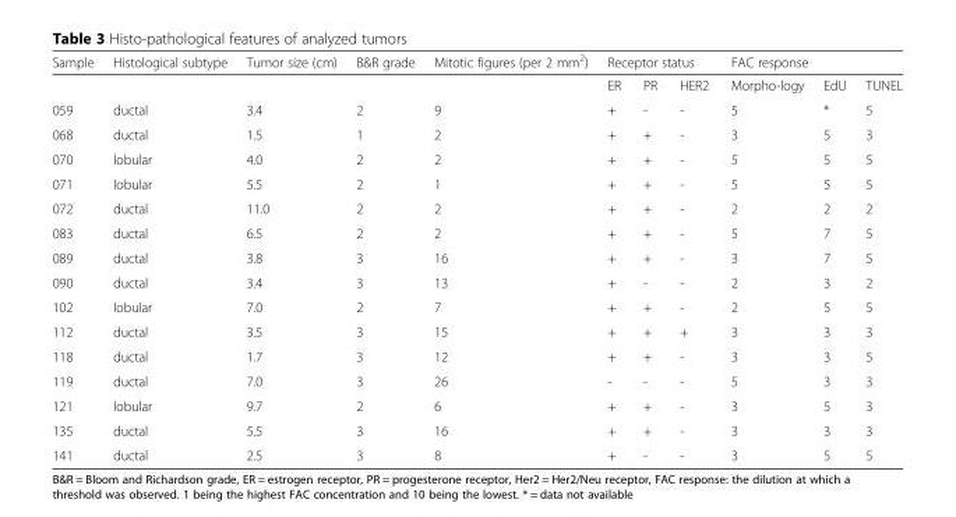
<table><thead><tr><td rowspan="2">Sample</td><td rowspan="2">Histological subtype</td><td rowspan="2">Tumor size (cm)</td><td rowspan="2">B&amp;R grade</td><td rowspan="2">Mitotic figures (per 2 mm<sup>2</sup>)</td><td colspan="3">Receptor status</td><td colspan="3">FAC response</td></tr><tr><td>ER</td><td>PR</td><td>HER2</td><td>Morpho-logy</td><td>EdU</td><td>TUNEL</td></tr></thead><tbody><tr><td>059</td><td>ductal</td><td>3.4</td><td>2</td><td>9</td><td>+</td><td>-</td><td>-</td><td>5</td><td>*</td><td>5</td></tr><tr><td>068</td><td>ductal</td><td>1.5</td><td>1</td><td>2</td><td>+</td><td>+</td><td>-</td><td>3</td><td>5</td><td>3</td></tr><tr><td>070</td><td>lobular</td><td>4.0</td><td>2</td><td>2</td><td>+</td><td>+</td><td>-</td><td>5</td><td>5</td><td>5</td></tr><tr><td>071</td><td>lobular</td><td>5.5</td><td>2</td><td>1</td><td>+</td><td>+</td><td>-</td><td>5</td><td>5</td><td>5</td></tr><tr><td>072</td><td>ductal</td><td>11.0</td><td>2</td><td>2</td><td>+</td><td>+</td><td>-</td><td>2</td><td>2</td><td>2</td></tr><tr><td>083</td><td>ductal</td><td>6.5</td><td>2</td><td>2</td><td>+</td><td>+</td><td>-</td><td>5</td><td>7</td><td>5</td></tr><tr><td>089</td><td>ductal</td><td>3.8</td><td>3</td><td>16</td><td>+</td><td>+</td><td>-</td><td>3</td><td>7</td><td>5</td></tr><tr><td>090</td><td>ductal</td><td>3.4</td><td>3</td><td>13</td><td>+</td><td>-</td><td>-</td><td>2</td><td>3</td><td>2</td></tr><tr><td>102</td><td>lobular</td><td>7.0</td><td>2</td><td>7</td><td>+</td><td>+</td><td>-</td><td>2</td><td>5</td><td>5</td></tr><tr><td>112</td><td>ductal</td><td>3.5</td><td>3</td><td>15</td><td>+</td><td>+</td><td>+</td><td>3</td><td>3</td><td>3</td></tr><tr><td>118</td><td>ductal</td><td>1.7</td><td>3</td><td>12</td><td>+</td><td>+</td><td>-</td><td>3</td><td>3</td><td>5</td></tr><tr><td>119</td><td>ductal</td><td>7.0</td><td>3</td><td>26</td><td>-</td><td>-</td><td>-</td><td>5</td><td>3</td><td>3</td></tr><tr><td>121</td><td>lobular</td><td>9.7</td><td>2</td><td>6</td><td>+</td><td>+</td><td>-</td><td>3</td><td>5</td><td>3</td></tr><tr><td>135</td><td>ductal</td><td>5.5</td><td>3</td><td>16</td><td>+</td><td>+</td><td>-</td><td>3</td><td>3</td><td>3</td></tr><tr><td>141</td><td>ductal</td><td>2.5</td><td>3</td><td>8</td><td>+</td><td>-</td><td>-</td><td>3</td><td>5</td><td>5</td></tr></tbody></table>